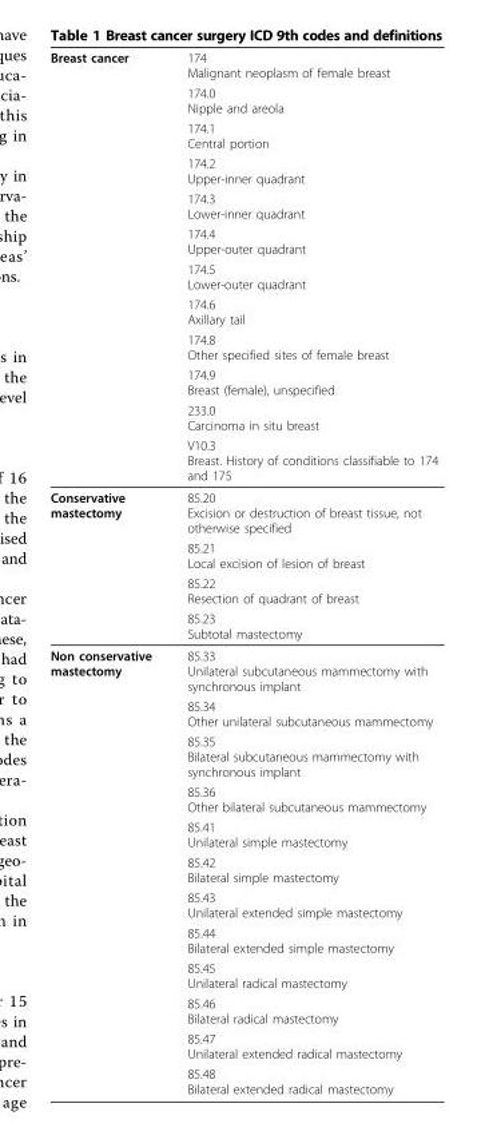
<table><thead><tr><td rowspan="12">Breast cancer</td><td rowspan="12">174 Malignant neoplasm of female breast 174.0 Nipple and areola 174.1 Central portion 174.2 Upper-inner quadrant 174.3 Lower-inner quadrant 174.4 Upper-outer quadrant 174.5 Lower-outer quadrant 174.6 Axillary tail 174.8 Other specified sites of female breast 174.9 Breast (female), unspecified 233.0 Carcinoma in situ breast V10.3 Breast. History of conditions classifiable to 174 and 175</td></tr><tr></tr><tr></tr><tr></tr><tr></tr><tr></tr><tr></tr><tr></tr><tr></tr><tr></tr><tr></tr><tr></tr></thead><tbody><tr><td rowspan="4">Conservative mastectomy</td><td>85.20 Excision or destruction of breast tissue, not otherwise specified</td></tr><tr><td>85.21 Local excision of lesion of breast</td></tr><tr><td>85.22 Resection of quadrant of breast</td></tr><tr><td>85.23 Subtotal mastectomy</td></tr><tr><td rowspan="12">Non conservative mastectomy</td><td>85.33 Unilateral subcutaneous mammectomy with synchronous implant</td></tr><tr><td>85.34 Other unilateral subcutaneous mammectomy</td></tr><tr><td>85.35 Bilateral subcutaneous mammectomy with synchronous implant</td></tr><tr><td>85.36 Other bilateral subcutaneous mammectomy</td></tr><tr><td>85.41 Unilateral simple mastectomy</td></tr><tr><td>85.42 Bilateral simple mastectomy</td></tr><tr><td>85.43 Unilateral extended simple mastectomy</td></tr><tr><td>85.44 Bilateral extended simple mastectomy</td></tr><tr><td>85.45 Unilateral radical mastectomy</td></tr><tr><td>85.46 Bilateral radical mastectomy</td></tr><tr><td>85.47 Unilateral extended radical mastectomy</td></tr><tr><td>85.48 Bilateral extended radical mastectomy</td></tr></tbody></table>